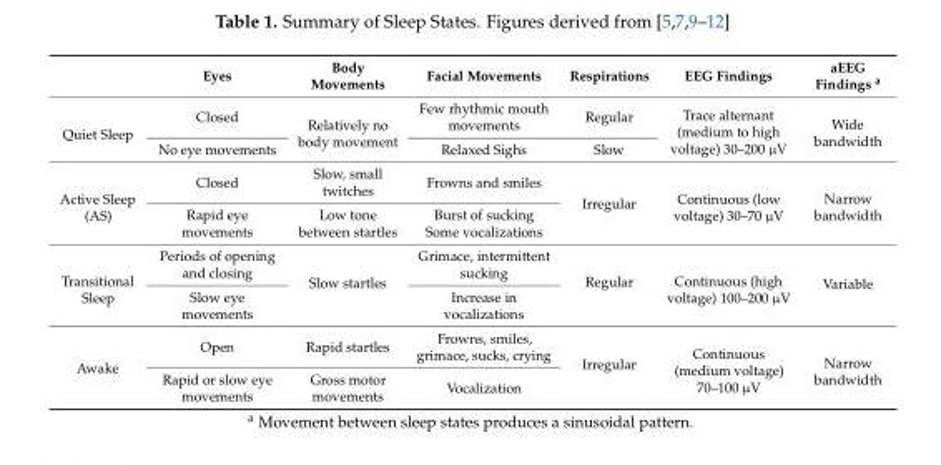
<table><thead><tr><td></td><td>Eyes</td><td>Body Movements</td><td>Facial Movements</td><td>Respirations</td><td>EEG Findings</td><td>aEEG Findings <sup>a</sup></td></tr></thead><tbody><tr><td rowspan="2">Quiet Sleep</td><td>Closed</td><td rowspan="2">Relatively no body movement</td><td>Few rhythmic mouth movements</td><td>Regular</td><td rowspan="2">Trace alternant (medium to high voltage) 30–200 µV</td><td rowspan="2">Wide bandwidth</td></tr><tr><td>No eye movements</td><td>Relaxed Sighs</td><td>Slow</td></tr><tr><td rowspan="2">Active Sleep (AS)</td><td>Closed</td><td>Slow, small twitches</td><td>Frowns and smiles</td><td rowspan="2">Irregular</td><td rowspan="2">Continuous (low voltage) 30–70 µV</td><td rowspan="2">Narrow bandwidth</td></tr><tr><td>Rapid eye movements</td><td>Low tone between startles</td><td>Burst of sucking Some vocalizations</td></tr><tr><td rowspan="2">Transitional Sleep</td><td>Periods of opening and closing</td><td rowspan="2">Slow startles</td><td>Grimace, intermittent sucking</td><td rowspan="2">Regular</td><td rowspan="2">Continuous (high voltage) 100–200 µV</td><td rowspan="2">Variable</td></tr><tr><td>Slow eye movements</td><td>Increase in vocalizations</td></tr><tr><td rowspan="2">Awake</td><td>Open</td><td>Rapid startles</td><td>Frowns, smiles, grimace, sucks, crying</td><td rowspan="2">Irregular</td><td rowspan="2">Continuous (medium voltage) 70–100 µV</td><td rowspan="2">Narrow bandwidth</td></tr><tr><td>Rapid or slow eye movements</td><td>Gross motor movements</td><td>Vocalization</td></tr></tbody></table>